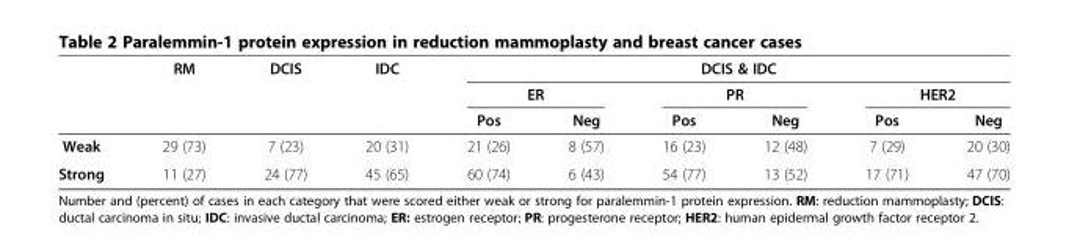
<table><thead><tr><td rowspan="3"></td><td rowspan="3">RM</td><td rowspan="3">DCIS</td><td rowspan="3">IDC</td><td colspan="6">DCIS &amp; IDC</td></tr><tr><td colspan="2">ER</td><td colspan="2">PR</td><td colspan="2">HER2</td></tr><tr><td>Pos</td><td>Neg</td><td>Pos</td><td>Neg</td><td>Pos</td><td>Neg</td></tr></thead><tbody><tr><td>Weak</td><td>29 (73)</td><td>7 (23)</td><td>20 (31)</td><td>21 (26)</td><td>8 (57)</td><td>16 (23)</td><td>12 (48)</td><td>7 (29)</td><td>20 (30)</td></tr><tr><td>Strong</td><td>11 (27)</td><td>24 (77)</td><td>45 (65)</td><td>60 (74)</td><td>6 (43)</td><td>54 (77)</td><td>13 (52)</td><td>17 (71)</td><td>47 (70)</td></tr></tbody></table>